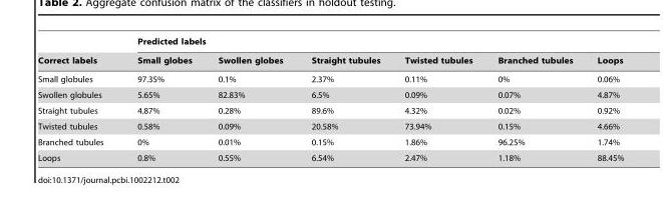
<table><thead><tr><td rowspan="2">Correct labels</td><td colspan="6">Predicted labels</td></tr><tr><td>Small globes</td><td>Swollen globes</td><td>Straight tubules</td><td>Twisted tubules</td><td>Branched tubules</td><td>Loops</td></tr></thead><tbody><tr><td>Small globules</td><td>97.35%</td><td>0.1%</td><td>2.37%</td><td>0.11%</td><td>0%</td><td>0.06%</td></tr><tr><td>Swollen globules</td><td>5.65%</td><td>82.83%</td><td>6.5%</td><td>0.09%</td><td>0.07%</td><td>4.87%</td></tr><tr><td>Straight tubules</td><td>4.87%</td><td>0.28%</td><td>89.6%</td><td>4.32%</td><td>0.02%</td><td>0.92%</td></tr><tr><td>Twisted tubules</td><td>0.58%</td><td>0.09%</td><td>20.58%</td><td>73.94%</td><td>0.15%</td><td>4.66%</td></tr><tr><td>Branched tubules</td><td>0%</td><td>0.01%</td><td>0.15%</td><td>1.86%</td><td>96.25%</td><td>1.74%</td></tr><tr><td>Loops</td><td>0.8%</td><td>0.55%</td><td>6.54%</td><td>2.47%</td><td>1.18%</td><td>88.45%</td></tr></tbody></table>